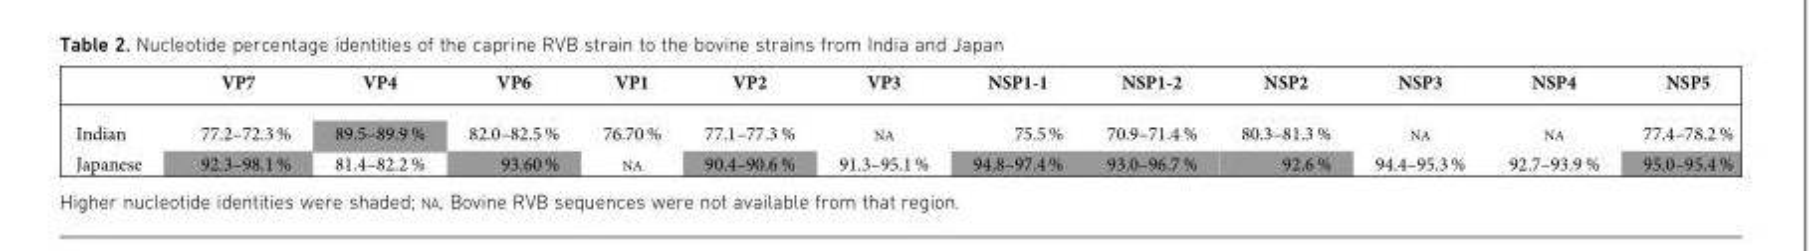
<table><thead><tr><td></td><td>VP7</td><td>VP4</td><td>VP6</td><td>VP1</td><td>VP2</td><td>VP3</td><td>NSP1-1</td><td>NSP1-2</td><td>NSP2</td><td>NSP3</td><td>NSP4</td><td>NSP5</td></tr></thead><tbody><tr><td>Indian</td><td>77.2–72.3 %</td><td>89.5–89.9 %</td><td>82.0–82.5 %</td><td>76.70 %</td><td>77.1–77.3 %</td><td>NA</td><td>75.5 %</td><td>70.9–71.4 %</td><td>80.3–81.3 %</td><td>NA</td><td>NA</td><td>77.4–78.2 %</td></tr><tr><td>Japanese</td><td>92.3–98.1 %</td><td>81.4–82.2 %</td><td>93.60 %</td><td>NA</td><td>90.4–90.6 %</td><td>91.3–95.1 %</td><td>94.8–97.4 %</td><td>93.0–96.7 %</td><td>92.6 %</td><td>94.4–95.3 %</td><td>92.7–93.9 %</td><td>95.0–95.4 %</td></tr></tbody></table>